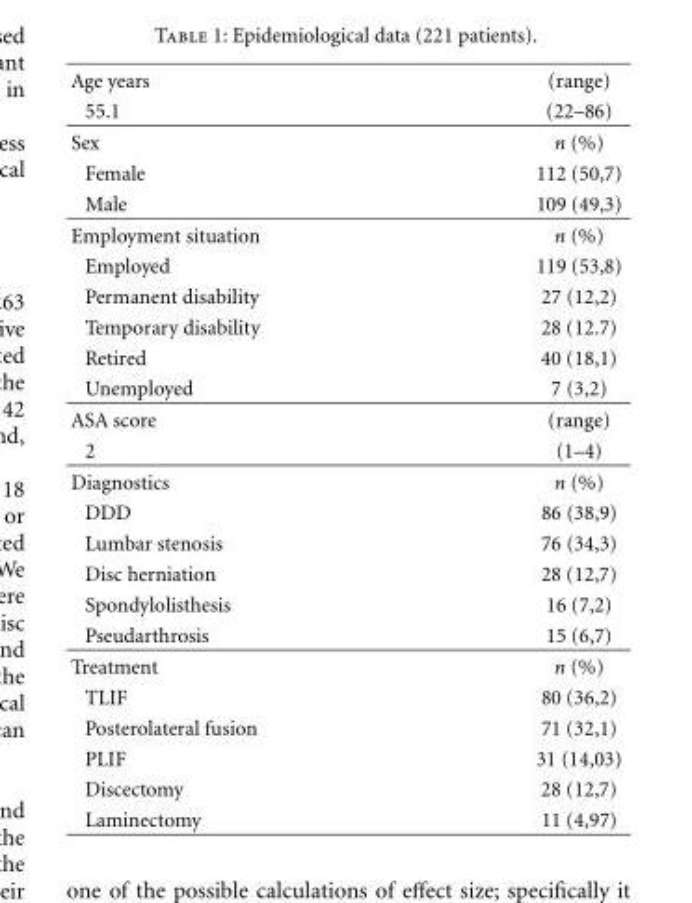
<table><tbody><tr><td>Age years</td><td>(range)</td></tr><tr><td>55.1</td><td>(22–86)</td></tr><tr><td>Sex</td><td>n (%)</td></tr><tr><td>Female</td><td>112 (50,7)</td></tr><tr><td>Male</td><td>109 (49,3)</td></tr><tr><td>Employment situation</td><td>n (%)</td></tr><tr><td>Employed</td><td>119 (53,8)</td></tr><tr><td>Permanent disability</td><td>27 (12,2)</td></tr><tr><td>Temporary disability</td><td>28 (12.7)</td></tr><tr><td>Retired</td><td>40 (18,1)</td></tr><tr><td>Unemployed</td><td>7 (3,2)</td></tr><tr><td>ASA score</td><td>(range)</td></tr><tr><td>2</td><td>(1–4)</td></tr><tr><td>Diagnostics</td><td>n (%)</td></tr><tr><td>DDD</td><td>86 (38,9)</td></tr><tr><td>Lumbar stenosis</td><td>76 (34,3)</td></tr><tr><td>Disc herniation</td><td>28 (12,7)</td></tr><tr><td>Spondylolisthesis</td><td>16 (7,2)</td></tr><tr><td>Pseudarthrosis</td><td>15 (6,7)</td></tr><tr><td>Treatment</td><td>n (%)</td></tr><tr><td>TLIF</td><td>80 (36,2)</td></tr><tr><td>Posterolateral fusion</td><td>71 (32,1)</td></tr><tr><td>PLIF</td><td>31 (14,03)</td></tr><tr><td>Discectomy</td><td>28 (12,7)</td></tr><tr><td>Laminectomy</td><td>11 (4,97)</td></tr></tbody></table>